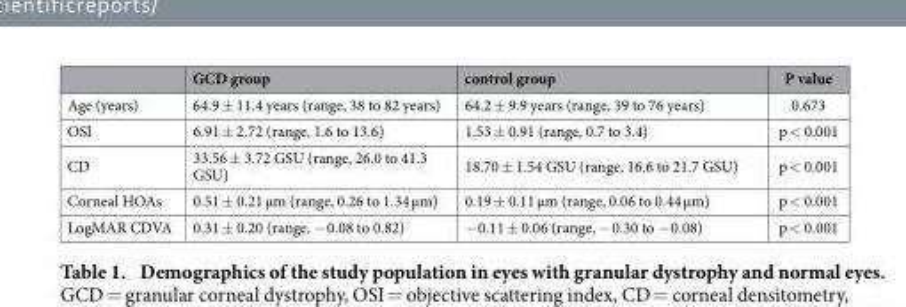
<table><thead><tr><td></td><td>GCD group</td><td>control group</td><td>P value</td></tr></thead><tbody><tr><td>Age (years)</td><td>64.9 ± 11.4 years (range, 38 to 82 years)</td><td>64.2 ± 9.9 years (range, 39 to 76 years)</td><td>0.673</td></tr><tr><td>OSI</td><td>6.91 ± 2.72 (range, 1.6 to 13.6)</td><td>1.53 ± 0.91 (range, 0.7 to 3.4)</td><td>p &lt; 0.001</td></tr><tr><td>CD</td><td>33.56 ± 3.72 GSU (range, 26.0 to 41.3 GSU)</td><td>18.70 ± 1.54 GSU (range, 16.6 to 21.7 GSU)</td><td>p &lt; 0.001</td></tr><tr><td>Corneal HOAs</td><td>0.51 ± 0.21 μm (range, 0.26 to 1.34 μm)</td><td>0.19 ± 0.11 μm (range, 0.06 to 0.44 μm)</td><td>p &lt; 0.001</td></tr><tr><td>LogMAR CDVA</td><td>0.31 ± 0.20 (range, − 0.08 to 0.82)</td><td>− 0.11 ± 0.06 (range, − 0.30 to − 0.08)</td><td>p &lt; 0.001</td></tr></tbody></table>